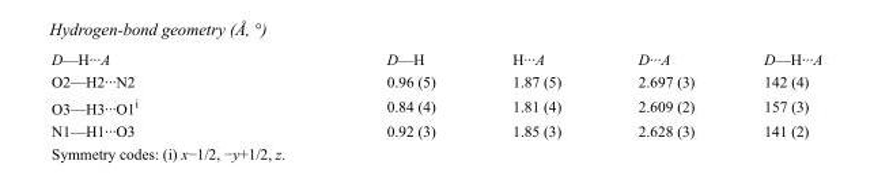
<table><tbody><tr><td>D—H···A</td><td>D—H</td><td>H···A</td><td>D···A</td><td>D—H···A</td></tr><tr><td>O2—H2···N2</td><td>0.96 (5)</td><td>1.87 (5)</td><td>2.697 (3)</td><td>142 (4)</td></tr><tr><td>O3—H3···O1<sup>i</sup></td><td>0.84 (4)</td><td>1.81 (4)</td><td>2.609 (2)</td><td>157 (3)</td></tr><tr><td>N1—H1···O3</td><td>0.92 (3)</td><td>1.85 (3)</td><td>2.628 (3)</td><td>141 (2)</td></tr></tbody></table>